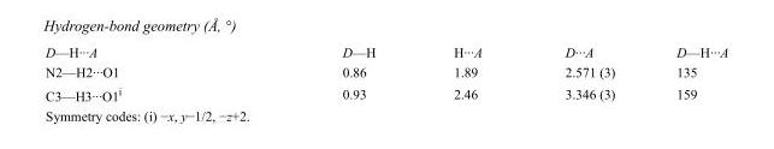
<table><tbody><tr><td>D—H···A</td><td>D—H</td><td>H···A</td><td>D···A</td><td>D—H···A</td></tr><tr><td>N2—H2···O1</td><td>0.86</td><td>1.89</td><td>2.571 (3)</td><td>135</td></tr><tr><td>C3—H3···O1<sup>i</sup></td><td>0.93</td><td>2.46</td><td>3.346 (3)</td><td>159</td></tr></tbody></table>